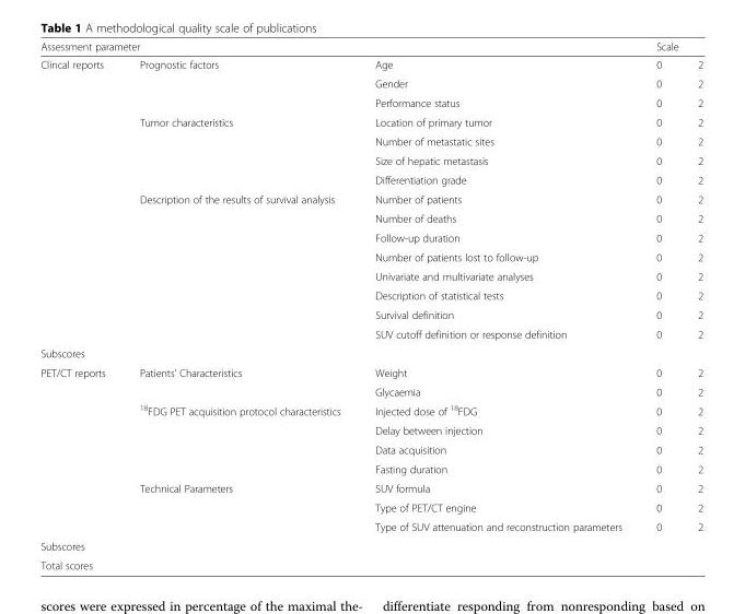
<table><thead><tr><td colspan="3">Assessment parameter</td><td colspan="2">Scale</td></tr><tr><td>Clincal reports</td><td>Prognostic factors</td><td>Age</td><td>0</td><td>2</td></tr></thead><tbody><tr><td></td><td></td><td>Gender</td><td>0</td><td>2</td></tr><tr><td></td><td></td><td>Performance status</td><td>0</td><td>2</td></tr><tr><td></td><td>Tumor characteristics</td><td>Location of primary tumor</td><td>0</td><td>2</td></tr><tr><td></td><td></td><td>Number of metastatic sites</td><td>0</td><td>2</td></tr><tr><td></td><td></td><td>Size of hepatic metastasis</td><td>0</td><td>2</td></tr><tr><td></td><td></td><td>Differentiation grade</td><td>0</td><td>2</td></tr><tr><td></td><td>Description of the results of survival analysis</td><td>Number of patients</td><td>0</td><td>2</td></tr><tr><td></td><td></td><td>Number of deaths</td><td>0</td><td>2</td></tr><tr><td></td><td></td><td>Follow-up duration</td><td>0</td><td>2</td></tr><tr><td></td><td></td><td>Number of patients lost to follow-up</td><td>0</td><td>2</td></tr><tr><td></td><td></td><td>Univariate and multivariate analyses</td><td>0</td><td>2</td></tr><tr><td></td><td></td><td>Description of statistical tests</td><td>0</td><td>2</td></tr><tr><td></td><td></td><td>Survival definition</td><td>0</td><td>2</td></tr><tr><td></td><td></td><td>SUV cutoff definition or response definition</td><td>0</td><td>2</td></tr><tr><td colspan="5">Subscores</td></tr><tr><td rowspan="9">PET/CT reports</td><td>Patients’ Characteristics</td><td>Weight</td><td>0</td><td>2</td></tr><tr><td></td><td>Glycaemia</td><td>0</td><td>2</td></tr><tr><td><sup>18</sup>FDG PET acquisition protocol characteristics</td><td>Injected dose of <sup>18</sup>FDG</td><td>0</td><td>2</td></tr><tr><td></td><td>Delay between injection</td><td>0</td><td>2</td></tr><tr><td></td><td>Data acquisition</td><td>0</td><td>2</td></tr><tr><td></td><td>Fasting duration</td><td>0</td><td>2</td></tr><tr><td>Technical Parameters</td><td>SUV formula</td><td>0</td><td>2</td></tr><tr><td></td><td>Type of PET/CT engine</td><td>0</td><td>2</td></tr><tr><td></td><td>Type of SUV attenuation and reconstruction parameters</td><td>0</td><td>2</td></tr><tr><td colspan="5">Subscores</td></tr><tr><td>Total scores</td><td></td><td></td><td></td><td></td></tr></tbody></table>